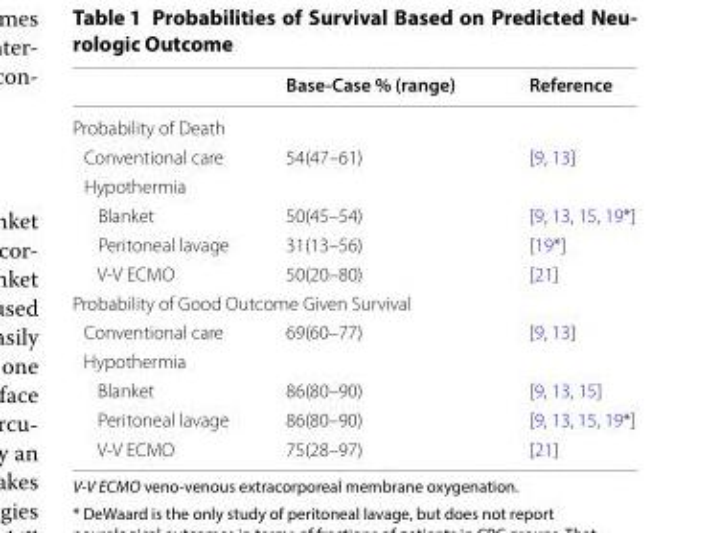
<table><thead><tr><td></td><td>Base-Case % (range)</td><td>Reference</td></tr></thead><tbody><tr><td colspan="3">Probability of Death</td></tr><tr><td>Conventional care</td><td>54(47–61)</td><td>[9, 13]</td></tr><tr><td colspan="3">Hypothermia</td></tr><tr><td>Blanket</td><td>50(45–54)</td><td>[9, 13, 15, 19*]</td></tr><tr><td>Peritoneal lavage</td><td>31(13–56)</td><td>[19*]</td></tr><tr><td>V-V ECMO</td><td>50(20–80)</td><td>[21]</td></tr><tr><td colspan="3">Probability of Good Outcome Given Survival</td></tr><tr><td>Conventional care</td><td>69(60–77)</td><td>[9, 13]</td></tr><tr><td colspan="3">Hypothermia</td></tr><tr><td>Blanket</td><td>86(80–90)</td><td>[9, 13, 15]</td></tr><tr><td>Peritoneal lavage</td><td>86(80–90)</td><td>[9, 13, 15, 19*]</td></tr><tr><td>V-V ECMO</td><td>75(28–97)</td><td>[21]</td></tr></tbody></table>